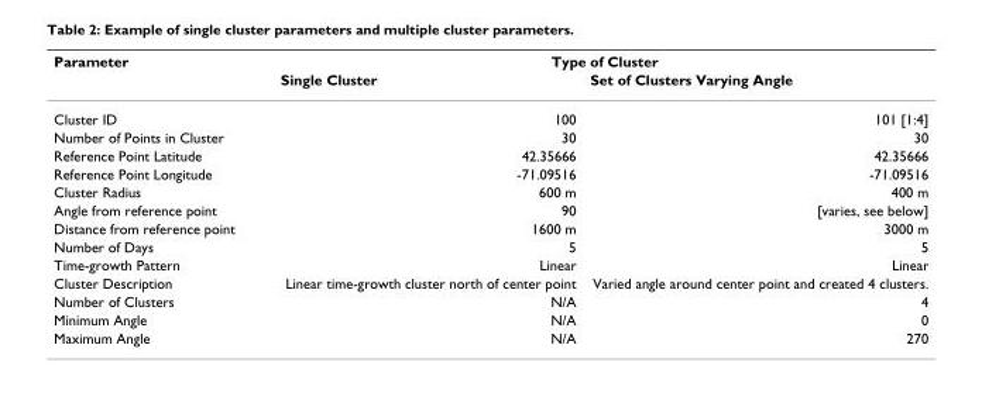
<table><thead><tr><td rowspan="2">Parameter</td><td colspan="2">Type of Cluster</td></tr><tr><td>Single Cluster</td><td>Set of Clusters Varying Angle</td></tr></thead><tbody><tr><td>Cluster ID</td><td>100</td><td>101 [1:4]</td></tr><tr><td>Number of Points in Cluster</td><td>30</td><td>30</td></tr><tr><td>Reference Point Latitude</td><td>42.35666</td><td>42.35666</td></tr><tr><td>Reference Point Longitude</td><td>-71.09516</td><td>-71.09516</td></tr><tr><td>Cluster Radius</td><td>600 m</td><td>400 m</td></tr><tr><td>Angle from reference point</td><td>90</td><td>[varies, see below]</td></tr><tr><td>Distance from reference point</td><td>1600 m</td><td>3000 m</td></tr><tr><td>Number of Days</td><td>5</td><td>5</td></tr><tr><td>Time-growth Pattern</td><td>Linear</td><td>Linear</td></tr><tr><td>Cluster Description</td><td>Linear time-growth cluster north of center point</td><td>Varied angle around center point and created 4 clusters.</td></tr><tr><td>Number of Clusters</td><td>N/A</td><td>4</td></tr><tr><td>Minimum Angle</td><td>N/A</td><td>0</td></tr><tr><td>Maximum Angle</td><td>N/A</td><td>270</td></tr></tbody></table>